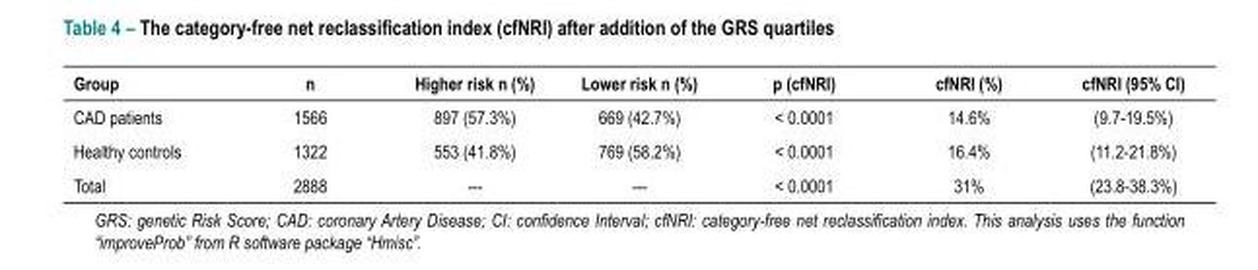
<table><thead><tr><td>Group</td><td>n</td><td>Higher risk n (%)</td><td>Lower risk n (%)</td><td>p (cfNRI)</td><td>cfNRI (%)</td><td>cfNRI (95% CI)</td></tr></thead><tbody><tr><td>CAD patients</td><td>1566</td><td>897 (57.3%)</td><td>669 (42.7%)</td><td>&lt; 0.0001</td><td>14.6%</td><td>(9.7-19.5%)</td></tr><tr><td>Healthy controls</td><td>1322</td><td>553 (41.8%)</td><td>769 (58.2%)</td><td>&lt; 0.0001</td><td>16.4%</td><td>(11.2-21.8%)</td></tr><tr><td>Total</td><td>2888</td><td>---</td><td>---</td><td>&lt; 0.0001</td><td>31%</td><td>(23.8-38.3%)</td></tr></tbody></table>